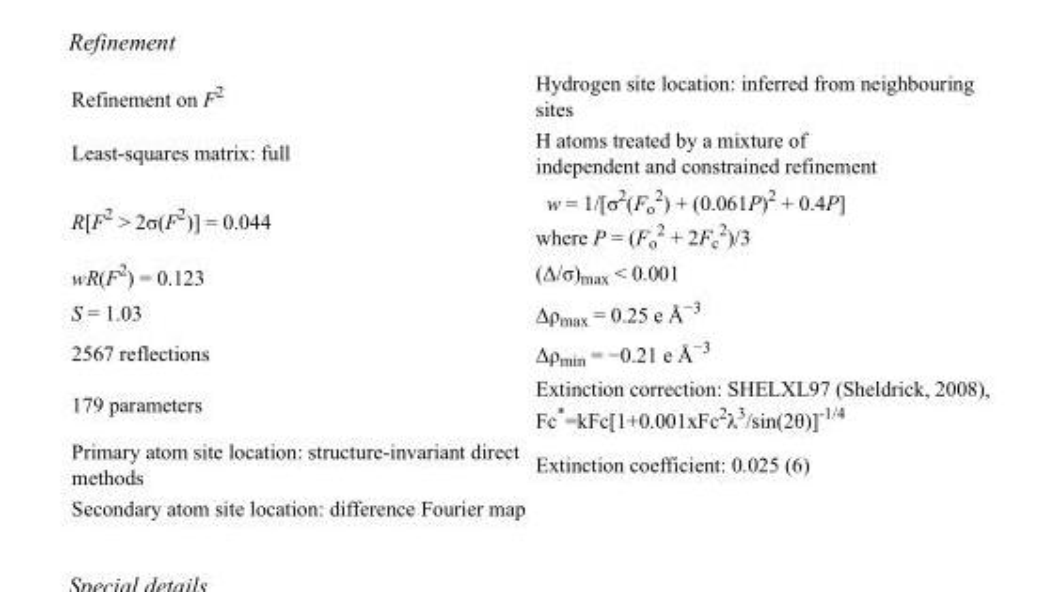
<table><tbody><tr><td>Refinement on F<sup>2</sup></td><td>Hydrogen site location: inferred from neighbouring sites</td></tr><tr><td>Least-squares matrix: full</td><td>H atoms treated by a mixture of independent and constrained refinement</td></tr><tr><td>R[F<sup>2</sup> &gt; 2σ(F<sup>2</sup>)] = 0.044</td><td>w = 1/[σ<sup>2</sup>(F<sub>o</sub> <sup>2</sup>) + (0.061P)<sup>2</sup> + 0.4P] where P = (F<sub>o</sub> <sup>2</sup> + 2F<sub>c</sub> <sup>2</sup>)/3</td></tr><tr><td>wR(F<sup>2</sup>) = 0.123</td><td>(Δ/σ)<sub>max</sub> &lt; 0.001</td></tr><tr><td>S = 1.03</td><td>Δρ<sub>max</sub> = 0.25 e Å<sup>−3</sup></td></tr><tr><td>2567 reflections</td><td>Δρ<sub>min</sub> = −0.21 e Å<sup>−3</sup></td></tr><tr><td>179 parameters</td><td>Extinction correction: SHELXL97 (Sheldrick, 2008), Fc*=kFc[1+0.001xFc<sup>2</sup>λ<sup>3</sup>/sin(2θ)]<sup>-1/4</sup></td></tr><tr><td>Primary atom site location: structure-invariant direct methods</td><td>Extinction coefficient: 0.025 (6)</td></tr><tr><td>Secondary atom site location: difference Fourier map</td><td></td></tr></tbody></table>